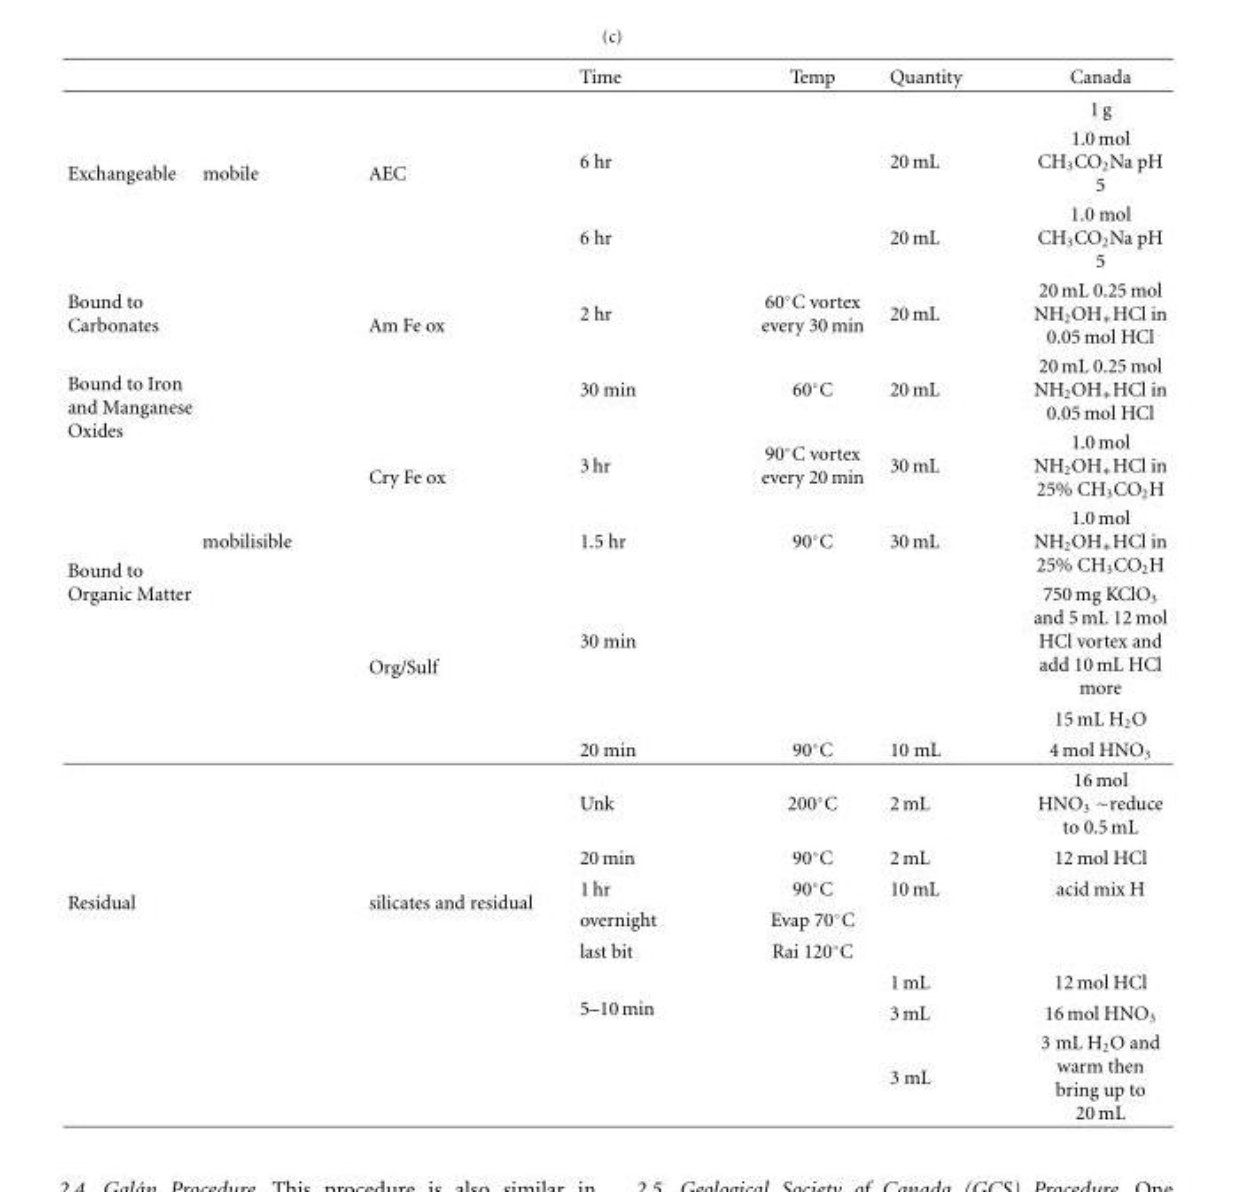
<table><thead><tr><td></td><td></td><td></td><td>Time</td><td>Temp</td><td>Quantity</td><td>Canada</td></tr></thead><tbody><tr><td></td><td></td><td></td><td></td><td></td><td></td><td>1 g</td></tr><tr><td rowspan="2">Exchangeable</td><td rowspan="2">mobile</td><td rowspan="2">AEC</td><td>6 hr</td><td></td><td>20 mL</td><td>1.0 mol CH<sub>3</sub>CO<sub>2</sub>Na pH 5</td></tr><tr><td>6 hr</td><td></td><td>20 mL</td><td>1.0 mol CH<sub>3</sub>CO<sub>2</sub>Na pH 5</td></tr><tr><td>Bound to Carbonates</td><td></td><td rowspan="2">Am Fe ox</td><td>2 hr</td><td>60◦C vortex every 30 min</td><td>20 mL</td><td>20 mL 0.25 mol NH<sub>2</sub>OH<sub>∗</sub>HCl in 0.05 mol HCl</td></tr><tr><td rowspan="2">Bound to Iron and Manganese Oxides</td><td></td><td>30 min</td><td>60◦C</td><td>20 mL</td><td>20 mL 0.25 mol NH<sub>2</sub>OH<sub>∗</sub>HCl in 0.05 mol HCl</td></tr><tr><td></td><td rowspan="2">Cry Fe ox</td><td>3 hr</td><td>90◦C vortex every 20 min</td><td>30 mL</td><td>1.0 mol NH<sub>2</sub>OH<sub>∗</sub>HCl in 25% CH<sub>3</sub>CO<sub>2</sub>H</td></tr><tr><td rowspan="4">Bound to Organic Matter</td><td>mobilisible</td><td>1.5 hr</td><td>90◦C</td><td>30 mL</td><td>1.0 mol NH<sub>2</sub>OH<sub>∗</sub>HCl in 25% CH<sub>3</sub>CO<sub>2</sub>H</td></tr><tr><td></td><td rowspan="3">Org/Sulf</td><td>30 min</td><td></td><td></td><td>750 mg KClO<sub>3</sub> and 5 mL 12 mol HCl vortex and add 10 mL HCl more</td></tr><tr><td></td><td></td><td></td><td></td><td>15 mL H<sub>2</sub>O</td></tr><tr><td></td><td>20 min</td><td>90◦C</td><td>10 mL</td><td>4 mol HNO<sub>3</sub></td></tr><tr><td rowspan="8">Residual</td><td></td><td rowspan="8">silicates and residual</td><td>Unk</td><td>200◦C</td><td>2 mL</td><td>16 mol HNO3 ∼reduce to 0.5 mL</td></tr><tr><td></td><td>20 min</td><td>90◦C</td><td>2 mL</td><td>12 mol HCl</td></tr><tr><td></td><td>1 hr</td><td>90◦C</td><td>10 mL</td><td>acid mix H</td></tr><tr><td></td><td>overnight</td><td>Evap 70◦C</td><td></td><td></td></tr><tr><td></td><td>last bit</td><td>Rai 120◦C</td><td></td><td></td></tr><tr><td></td><td rowspan="3">5–10 min</td><td></td><td>1 mL</td><td>12 mol HCl</td></tr><tr><td></td><td></td><td>3 mL</td><td>16 mol HNO3</td></tr><tr><td></td><td></td><td>3 mL</td><td>3 mL H2O and warm then bring up to 20 mL</td></tr></tbody></table>